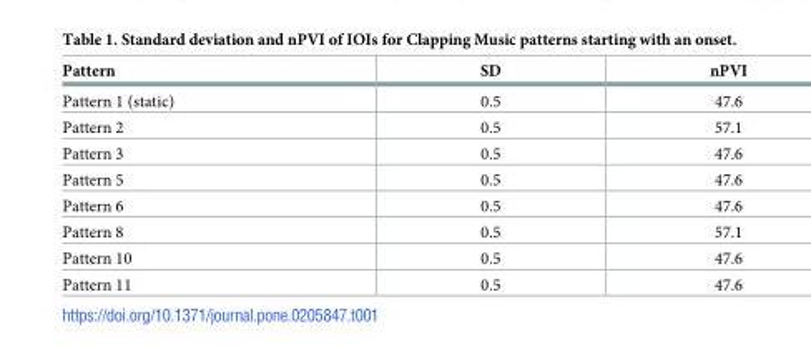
<table><thead><tr><td>Pattern</td><td>SD</td><td>nPVI</td></tr></thead><tbody><tr><td>Pattern 1 (static)</td><td>0.5</td><td>47.6</td></tr><tr><td>Pattern 2</td><td>0.5</td><td>57.1</td></tr><tr><td>Pattern 3</td><td>0.5</td><td>47.6</td></tr><tr><td>Pattern 5</td><td>0.5</td><td>47.6</td></tr><tr><td>Pattern 6</td><td>0.5</td><td>47.6</td></tr><tr><td>Pattern 8</td><td>0.5</td><td>57.1</td></tr><tr><td>Pattern 10</td><td>0.5</td><td>47.6</td></tr><tr><td>Pattern 11</td><td>0.5</td><td>47.6</td></tr></tbody></table>